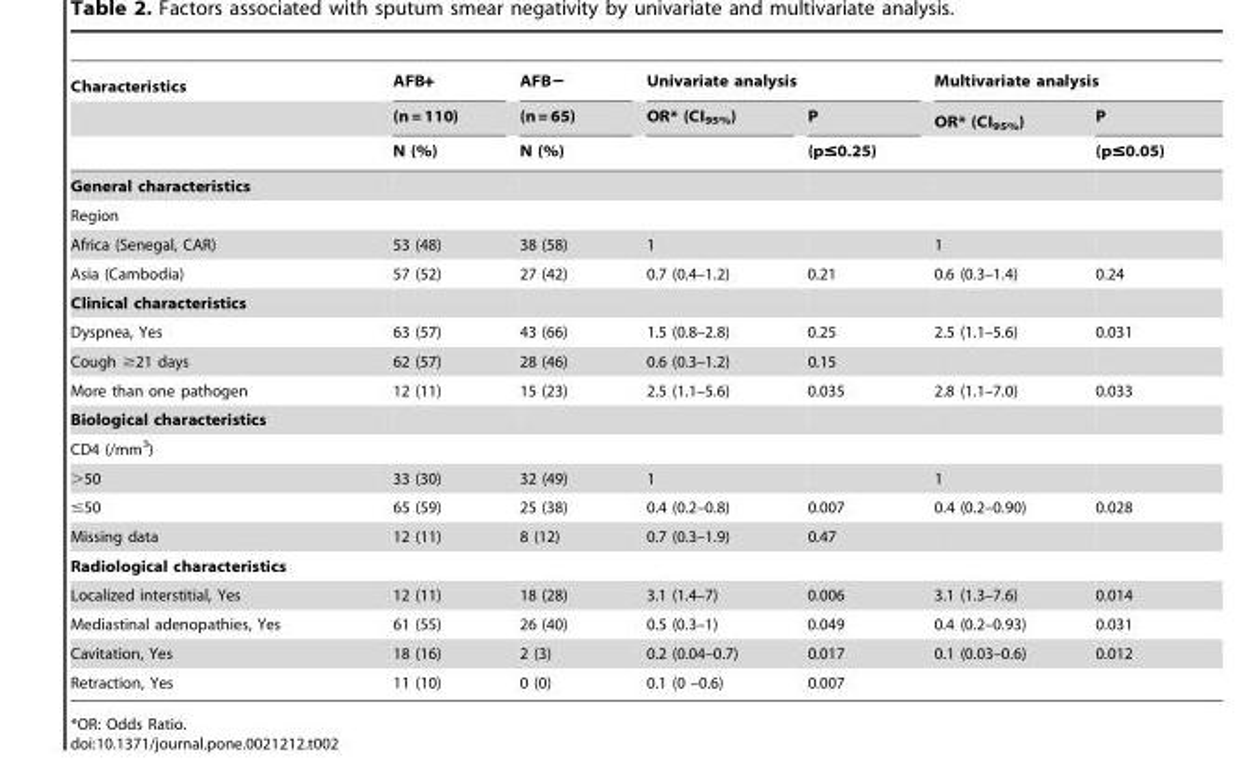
<table><thead><tr><td rowspan="3">Characteristics</td><td rowspan="3">AFB+ (n = 110) N (%)</td><td rowspan="3">AFB− (n = 65) N (%)</td><td colspan="2">Univariate analysis</td><td colspan="2">Multivariate analysis</td></tr><tr><td rowspan="2">OR* (CI<sub>95%</sub>)</td><td rowspan="2">P (p≤0.25)</td><td rowspan="2">OR* (CI<sub>95%</sub>)</td><td rowspan="2">P (p≤0.05)</td></tr><tr></tr></thead><tbody><tr><td colspan="7">General characteristics</td></tr><tr><td colspan="7">Region</td></tr><tr><td>Africa (Senegal, CAR)</td><td>53 (48)</td><td>38 (58)</td><td>1</td><td></td><td>1</td><td></td></tr><tr><td>Asia (Cambodia)</td><td>57 (52)</td><td>27 (42)</td><td>0.7 (0.4–1.2)</td><td>0.21</td><td>0.6 (0.3–1.4)</td><td>0.24</td></tr><tr><td colspan="7">Clinical characteristics</td></tr><tr><td>Dyspnea, Yes</td><td>63 (57)</td><td>43 (66)</td><td>1.5 (0.8–2.8)</td><td>0.25</td><td>2.5 (1.1–5.6)</td><td>0.031</td></tr><tr><td>Cough ≥21 days</td><td>62 (57)</td><td>28 (46)</td><td>0.6 (0.3–1.2)</td><td>0.15</td><td></td><td></td></tr><tr><td>More than one pathogen</td><td>12 (11)</td><td>15 (23)</td><td>2.5 (1.1–5.6)</td><td>0.035</td><td>2.8 (1.1–7.0)</td><td>0.033</td></tr><tr><td colspan="7">Biological characteristics</td></tr><tr><td colspan="7">CD4 (/mm<sup>3</sup>)</td></tr><tr><td>&gt;50</td><td>33 (30)</td><td>32 (49)</td><td>1</td><td></td><td>1</td><td></td></tr><tr><td>≤50</td><td>65 (59)</td><td>25 (38)</td><td>0.4 (0.2–0.8)</td><td>0.007</td><td>0.4 (0.2–0.90)</td><td>0.028</td></tr><tr><td>Missing data</td><td>12 (11)</td><td>8 (12)</td><td>0.7 (0.3–1.9)</td><td>0.47</td><td></td><td></td></tr><tr><td colspan="7">Radiological characteristics</td></tr><tr><td>Localized interstitial, Yes</td><td>12 (11)</td><td>18 (28)</td><td>3.1 (1.4–7)</td><td>0.006</td><td>3.1 (1.3–7.6)</td><td>0.014</td></tr><tr><td>Mediastinal adenopathies, Yes</td><td>61 (55)</td><td>26 (40)</td><td>0.5 (0.3–1)</td><td>0.049</td><td>0.4 (0.2–0.93)</td><td>0.031</td></tr><tr><td>Cavitation, Yes</td><td>18 (16)</td><td>2 (3)</td><td>0.2 (0.04–0.7)</td><td>0.017</td><td>0.1 (0.03–0.6)</td><td>0.012</td></tr><tr><td>Retraction, Yes</td><td>11 (10)</td><td>0 (0)</td><td>0.1 (0 –0.6)</td><td>0.007</td><td></td><td></td></tr></tbody></table>